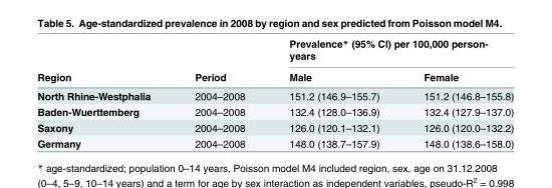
<table><thead><tr><td rowspan="2">Region</td><td rowspan="2">Period</td><td colspan="2">Prevalence* (95% CI) per 100,000 person- years</td></tr><tr><td>Male</td><td>Female</td></tr></thead><tbody><tr><td>North Rhine-Westphalia</td><td>2004–2008</td><td>151.2 (146.9–155.7)</td><td>151.2 (146.8–155.8)</td></tr><tr><td>Baden-Wuerttemberg</td><td>2004–2008</td><td>132.4 (128.0–136.9)</td><td>132.4 (127.9–137.0)</td></tr><tr><td>Saxony</td><td>2004–2008</td><td>126.0 (120.1–132.1)</td><td>126.0 (120.0–132.2)</td></tr><tr><td>Germany</td><td>2004–2008</td><td>148.0 (138.7–157.9)</td><td>148.0 (138.6–158.0)</td></tr></tbody></table>